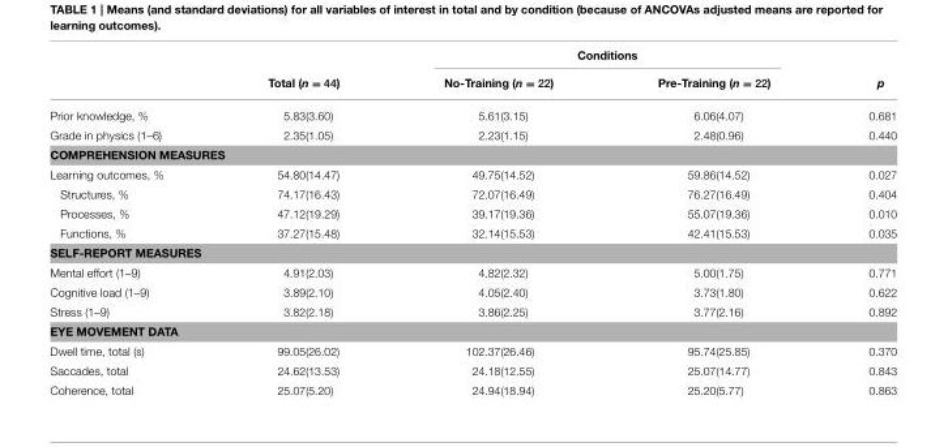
<table><thead><tr><td rowspan="2"></td><td rowspan="2">Total (n = 44)</td><td colspan="2">Conditions</td><td rowspan="2">p</td></tr><tr><td>No-Training (n = 22)</td><td>Pre-Training (n = 22)</td></tr></thead><tbody><tr><td>Prior knowledge, %</td><td>5.83(3.60)</td><td>5.61(3.15)</td><td>6.06(4.07)</td><td>0.681</td></tr><tr><td>Grade in physics (1–6)</td><td>2.35(1.05)</td><td>2.23(1.15)</td><td>2.48(0.96)</td><td>0.440</td></tr><tr><td colspan="5">COMPREHENSION MEASURES</td></tr><tr><td>Learning outcomes, %</td><td>54.80(14.47)</td><td>49.75(14.52)</td><td>59.86(14.52)</td><td>0.027</td></tr><tr><td>Structures, %</td><td>74.17(16.43)</td><td>72.07(16.49)</td><td>76.27(16.49)</td><td>0.404</td></tr><tr><td>Processes, %</td><td>47.12(19.29)</td><td>39.17(19.36)</td><td>55.07(19.36)</td><td>0.010</td></tr><tr><td>Functions, %</td><td>37.27(15.48)</td><td>32.14(15.53)</td><td>42.41(15.53)</td><td>0.035</td></tr><tr><td colspan="5">SELF-REPORT MEASURES</td></tr><tr><td>Mental effort (1–9)</td><td>4.91(2.03)</td><td>4.82(2.32)</td><td>5.00(1.75)</td><td>0.771</td></tr><tr><td>Cognitive load (1–9)</td><td>3.89(2.10)</td><td>4.05(2.40)</td><td>3.73(1.80)</td><td>0.622</td></tr><tr><td>Stress (1–9)</td><td>3.82(2.18)</td><td>3.86(2.25)</td><td>3.77(2.16)</td><td>0.892</td></tr><tr><td colspan="5">EYE MOVEMENT DATA</td></tr><tr><td>Dwell time, total (s)</td><td>99.05(26.02)</td><td>102.37(26.46)</td><td>95.74(25.85)</td><td>0.370</td></tr><tr><td>Saccades, total</td><td>24.62(13.53)</td><td>24.18(12.55)</td><td>25.07(14.77)</td><td>0.843</td></tr><tr><td>Coherence, total</td><td>25.07(5.20)</td><td>24.94(18.94)</td><td>25.20(5.77)</td><td>0.863</td></tr></tbody></table>